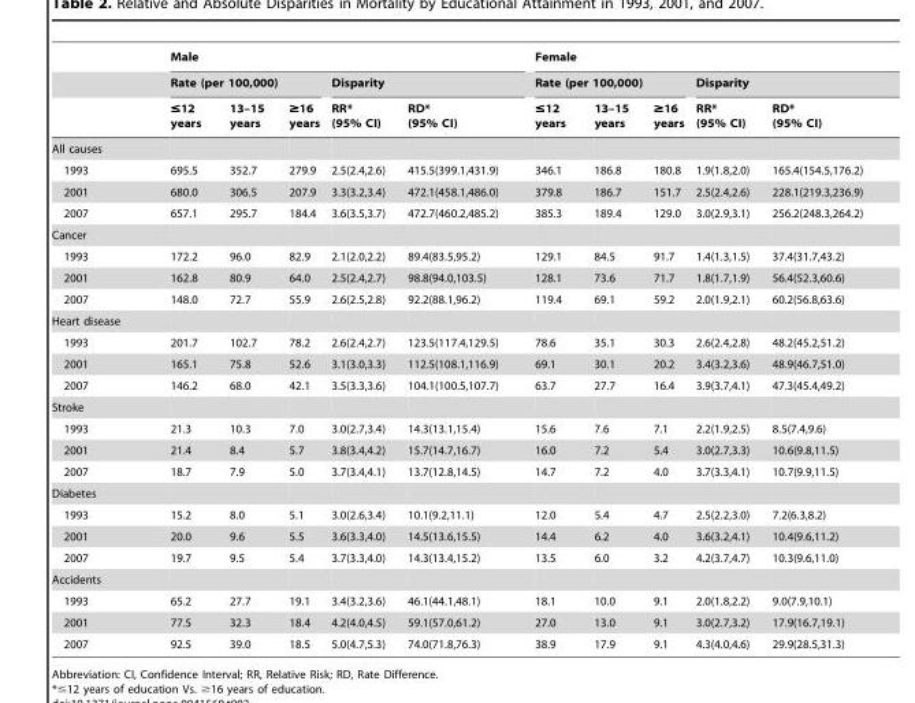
<table><thead><tr><td rowspan="3"></td><td colspan="5">Male</td><td colspan="5">Female</td></tr><tr><td colspan="3">Rate (per 100,000)</td><td colspan="2">Disparity</td><td colspan="3">Rate (per 100,000)</td><td colspan="2">Disparity</td></tr><tr><td>≤12 years</td><td>13–15 years</td><td>≥16 years</td><td>RR* (95% CI)</td><td>RD* (95% CI)</td><td>≤12 years</td><td>13–15 years</td><td>≥16 years</td><td>RR* (95% CI)</td><td>RD* (95% CI)</td></tr></thead><tbody><tr><td colspan="11">All causes</td></tr><tr><td>1993</td><td>695.5</td><td>352.7</td><td>279.9</td><td>2.5(2.4,2.6)</td><td>415.5(399.1,431.9)</td><td>346.1</td><td>186.8</td><td>180.8</td><td>1.9(1.8,2.0)</td><td>165.4(154.5,176.2)</td></tr><tr><td>2001</td><td>680.0</td><td>306.5</td><td>207.9</td><td>3.3(3.2,3.4)</td><td>472.1(458.1,486.0)</td><td>379.8</td><td>186.7</td><td>151.7</td><td>2.5(2.4,2.6)</td><td>228.1(219.3,236.9)</td></tr><tr><td>2007</td><td>657.1</td><td>295.7</td><td>184.4</td><td>3.6(3.5,3.7)</td><td>472.7(460.2,485.2)</td><td>385.3</td><td>189.4</td><td>129.0</td><td>3.0(2.9,3.1)</td><td>256.2(248.3,264.2)</td></tr><tr><td colspan="11">Cancer</td></tr><tr><td>1993</td><td>172.2</td><td>96.0</td><td>82.9</td><td>2.1(2.0,2.2)</td><td>89.4(83.5,95.2)</td><td>129.1</td><td>84.5</td><td>91.7</td><td>1.4(1.3,1.5)</td><td>37.4(31.7,43.2)</td></tr><tr><td>2001</td><td>162.8</td><td>80.9</td><td>64.0</td><td>2.5(2.4,2.7)</td><td>98.8(94.0,103.5)</td><td>128.1</td><td>73.6</td><td>71.7</td><td>1.8(1.7,1.9)</td><td>56.4(52.3,60.6)</td></tr><tr><td>2007</td><td>148.0</td><td>72.7</td><td>55.9</td><td>2.6(2.5,2.8)</td><td>92.2(88.1,96.2)</td><td>119.4</td><td>69.1</td><td>59.2</td><td>2.0(1.9,2.1)</td><td>60.2(56.8,63.6)</td></tr><tr><td colspan="11">Heart disease</td></tr><tr><td>1993</td><td>201.7</td><td>102.7</td><td>78.2</td><td>2.6(2.4,2.7)</td><td>123.5(117.4,129.5)</td><td>78.6</td><td>35.1</td><td>30.3</td><td>2.6(2.4,2.8)</td><td>48.2(45.2,51.2)</td></tr><tr><td>2001</td><td>165.1</td><td>75.8</td><td>52.6</td><td>3.1(3.0,3.3)</td><td>112.5(108.1,116.9)</td><td>69.1</td><td>30.1</td><td>20.2</td><td>3.4(3.2,3.6)</td><td>48.9(46.7,51.0)</td></tr><tr><td>2007</td><td>146.2</td><td>68.0</td><td>42.1</td><td>3.5(3.3,3.6)</td><td>104.1(100.5,107.7)</td><td>63.7</td><td>27.7</td><td>16.4</td><td>3.9(3.7,4.1)</td><td>47.3(45.4,49.2)</td></tr><tr><td colspan="11">Stroke</td></tr><tr><td>1993</td><td>21.3</td><td>10.3</td><td>7.0</td><td>3.0(2.7,3.4)</td><td>14.3(13.1,15.4)</td><td>15.6</td><td>7.6</td><td>7.1</td><td>2.2(1.9,2.5)</td><td>8.5(7.4,9.6)</td></tr><tr><td>2001</td><td>21.4</td><td>8.4</td><td>5.7</td><td>3.8(3.4,4.2)</td><td>15.7(14.7,16.7)</td><td>16.0</td><td>7.2</td><td>5.4</td><td>3.0(2.7,3.3)</td><td>10.6(9.8,11.5)</td></tr><tr><td>2007</td><td>18.7</td><td>7.9</td><td>5.0</td><td>3.7(3.4,4.1)</td><td>13.7(12.8,14.5)</td><td>14.7</td><td>7.2</td><td>4.0</td><td>3.7(3.3,4.1)</td><td>10.7(9.9,11.5)</td></tr><tr><td colspan="11">Diabetes</td></tr><tr><td>1993</td><td>15.2</td><td>8.0</td><td>5.1</td><td>3.0(2.6,3.4)</td><td>10.1(9.2,11.1)</td><td>12.0</td><td>5.4</td><td>4.7</td><td>2.5(2.2,3.0)</td><td>7.2(6.3,8.2)</td></tr><tr><td>2001</td><td>20.0</td><td>9.6</td><td>5.5</td><td>3.6(3.3,4.0)</td><td>14.5(13.6,15.5)</td><td>14.4</td><td>6.2</td><td>4.0</td><td>3.6(3.2,4.1)</td><td>10.4(9.6,11.2)</td></tr><tr><td>2007</td><td>19.7</td><td>9.5</td><td>5.4</td><td>3.7(3.3,4.0)</td><td>14.3(13.4,15.2)</td><td>13.5</td><td>6.0</td><td>3.2</td><td>4.2(3.7,4.7)</td><td>10.3(9.6,11.0)</td></tr><tr><td colspan="11">Accidents</td></tr><tr><td>1993</td><td>65.2</td><td>27.7</td><td>19.1</td><td>3.4(3.2,3.6)</td><td>46.1(44.1,48.1)</td><td>18.1</td><td>10.0</td><td>9.1</td><td>2.0(1.8,2.2)</td><td>9.0(7.9,10.1)</td></tr><tr><td>2001</td><td>77.5</td><td>32.3</td><td>18.4</td><td>4.2(4.0,4.5)</td><td>59.1(57.0,61.2)</td><td>27.0</td><td>13.0</td><td>9.1</td><td>3.0(2.7,3.2)</td><td>17.9(16.7,19.1)</td></tr><tr><td>2007</td><td>92.5</td><td>39.0</td><td>18.5</td><td>5.0(4.7,5.3)</td><td>74.0(71.8,76.3)</td><td>38.9</td><td>17.9</td><td>9.1</td><td>4.3(4.0,4.6)</td><td>29.9(28.5,31.3)</td></tr></tbody></table>